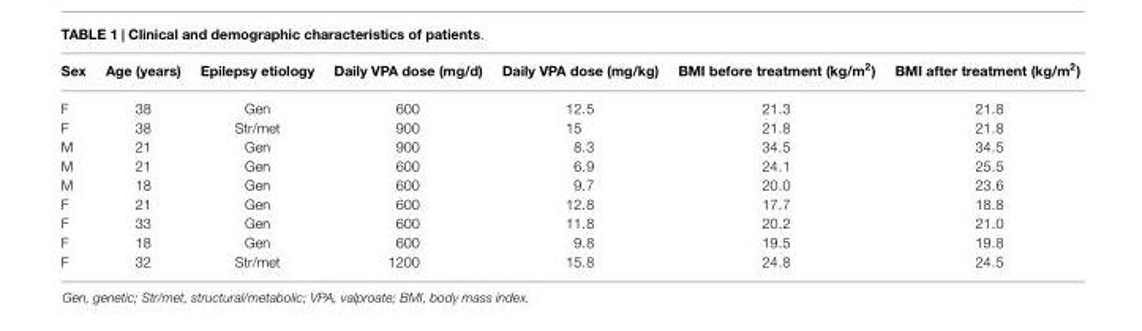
<table><thead><tr><td>Sex</td><td>Age (years)</td><td>Epilepsy etiology</td><td>Daily VPA dose (mg/d)</td><td>Daily VPA dose (mg/kg)</td><td>BMI before treatment (kg/m<sup>2</sup>)</td><td>BMI after treatment (kg/m<sup>2</sup>)</td></tr></thead><tbody><tr><td>F</td><td>38</td><td>Gen</td><td>600</td><td>12.5</td><td>21.3</td><td>21.8</td></tr><tr><td>F</td><td>38</td><td>Str/met</td><td>900</td><td>15</td><td>21.8</td><td>21.8</td></tr><tr><td>M</td><td>21</td><td>Gen</td><td>900</td><td>8.3</td><td>34.5</td><td>34.5</td></tr><tr><td>M</td><td>21</td><td>Gen</td><td>600</td><td>6.9</td><td>24.1</td><td>25.5</td></tr><tr><td>M</td><td>18</td><td>Gen</td><td>600</td><td>9.7</td><td>20.0</td><td>23.6</td></tr><tr><td>F</td><td>21</td><td>Gen</td><td>600</td><td>12.8</td><td>17.7</td><td>18.8</td></tr><tr><td>F</td><td>33</td><td>Gen</td><td>600</td><td>11.8</td><td>20.2</td><td>21.0</td></tr><tr><td>F</td><td>18</td><td>Gen</td><td>600</td><td>9.8</td><td>19.5</td><td>19.8</td></tr><tr><td>F</td><td>32</td><td>Str/met</td><td>1200</td><td>15.8</td><td>24.8</td><td>24.5</td></tr></tbody></table>